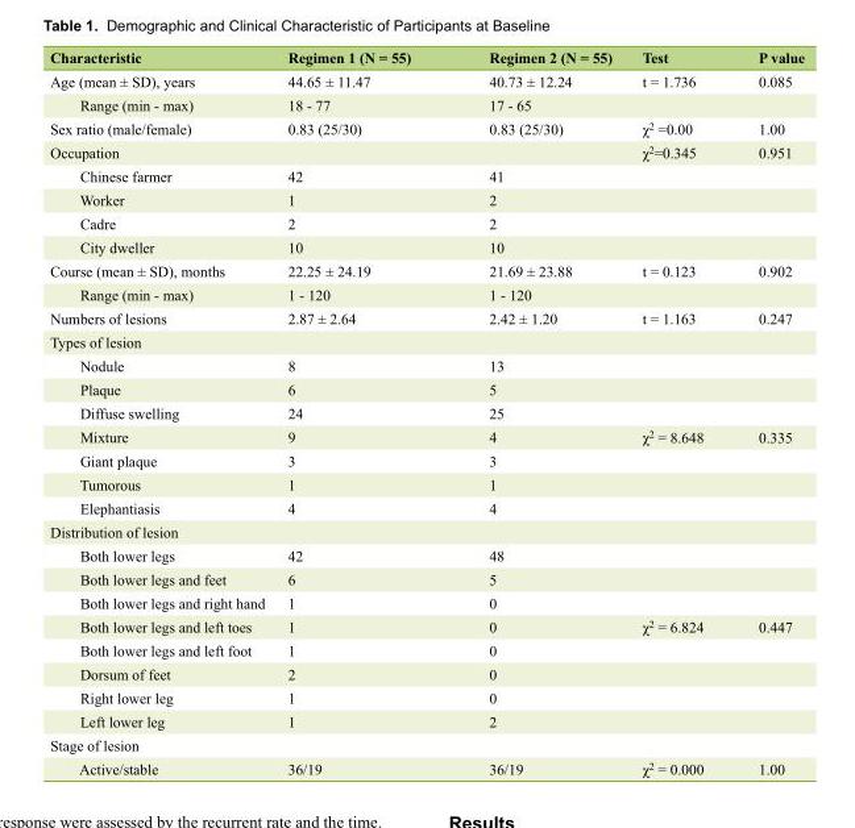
<table><thead><tr><td>Characteristic</td><td>Regimen 1 (N = 55)</td><td>Regimen 2 (N = 55)</td><td>Test</td><td>P value</td></tr></thead><tbody><tr><td>Age (mean ± SD), years</td><td>44.65 ± 11.47</td><td>40.73 ± 12.24</td><td>t = 1.736</td><td>0.085</td></tr><tr><td>Range (min - max)</td><td>18 - 77</td><td>17 - 65</td><td></td><td></td></tr><tr><td>Sex ratio (male/female)</td><td>0.83 (25/30)</td><td>0.83 (25/30)</td><td>χ<sup>2</sup> =0.00</td><td>1.00</td></tr><tr><td>Occupation</td><td></td><td></td><td>χ<sup>2</sup>=0.345</td><td>0.951</td></tr><tr><td>Chinese farmer</td><td>42</td><td>41</td><td></td><td></td></tr><tr><td>Worker</td><td>1</td><td>2</td><td></td><td></td></tr><tr><td>Cadre</td><td>2</td><td>2</td><td></td><td></td></tr><tr><td>City dweller</td><td>10</td><td>10</td><td></td><td></td></tr><tr><td>Course (mean ± SD), months</td><td>22.25 ± 24.19</td><td>21.69 ± 23.88</td><td>t = 0.123</td><td>0.902</td></tr><tr><td>Range (min - max)</td><td>1 - 120</td><td>1 - 120</td><td></td><td></td></tr><tr><td>Numbers of lesions</td><td>2.87 ± 2.64</td><td>2.42 ± 1.20</td><td>t = 1.163</td><td>0.247</td></tr><tr><td colspan="5">Types of lesion</td></tr><tr><td>Nodule</td><td>8</td><td>13</td><td></td><td></td></tr><tr><td>Plaque</td><td>6</td><td>5</td><td></td><td></td></tr><tr><td>Diffuse swelling</td><td>24</td><td>25</td><td></td><td></td></tr><tr><td>Mixture</td><td>9</td><td>4</td><td>χ<sup>2</sup> = 8.648</td><td>0.335</td></tr><tr><td>Giant plaque</td><td>3</td><td>3</td><td></td><td></td></tr><tr><td>Tumorous</td><td>1</td><td>1</td><td></td><td></td></tr><tr><td>Elephantiasis</td><td>4</td><td>4</td><td></td><td></td></tr><tr><td colspan="5">Distribution of lesion</td></tr><tr><td>Both lower legs</td><td>42</td><td>48</td><td></td><td></td></tr><tr><td>Both lower legs and feet</td><td>6</td><td>5</td><td></td><td></td></tr><tr><td>Both lower legs and right hand</td><td>1</td><td>0</td><td></td><td></td></tr><tr><td>Both lower legs and left toes</td><td>1</td><td>0</td><td>χ<sup>2</sup> = 6.824</td><td>0.447</td></tr><tr><td>Both lower legs and left foot</td><td>1</td><td>0</td><td></td><td></td></tr><tr><td>Dorsum of feet</td><td>2</td><td>0</td><td></td><td></td></tr><tr><td>Right lower leg</td><td>1</td><td>0</td><td></td><td></td></tr><tr><td>Left lower leg</td><td>1</td><td>2</td><td></td><td></td></tr><tr><td colspan="5">Stage of lesion</td></tr><tr><td>Active/stable</td><td>36/19</td><td>36/19</td><td>χ<sup>2</sup> = 0.000</td><td>1.00</td></tr></tbody></table>